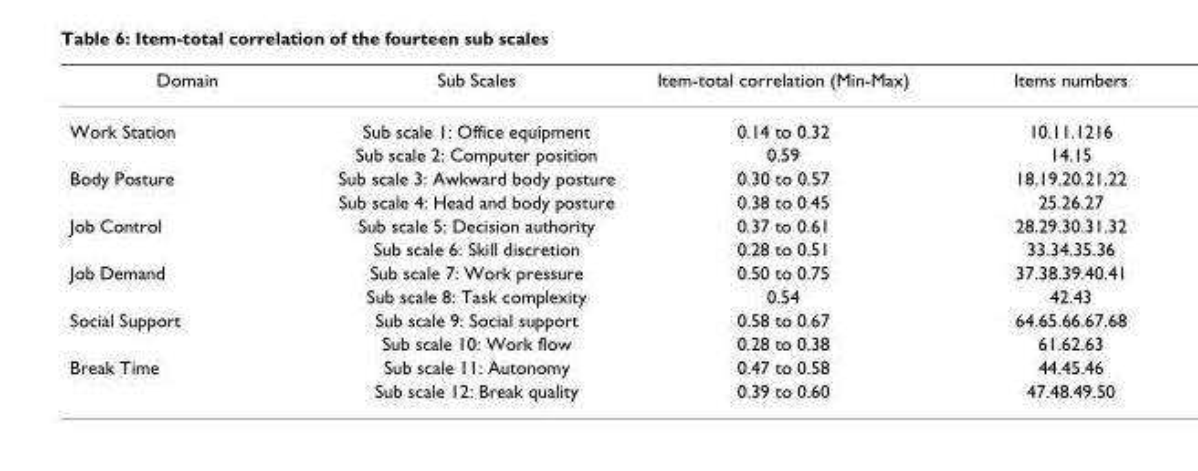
<table><thead><tr><td>Domain</td><td>Sub Scales</td><td>Item-total correlation (Min-Max)</td><td>Items numbers</td></tr></thead><tbody><tr><td rowspan="2">Work Station</td><td>Sub scale 1: Office equipment</td><td>0.14 to 0.32</td><td>10.11.1216</td></tr><tr><td>Sub scale 2: Computer position</td><td>0.59</td><td>14.15</td></tr><tr><td rowspan="2">Body Posture</td><td>Sub scale 3: Awkward body posture</td><td>0.30 to 0.57</td><td>18.19.20.21.22</td></tr><tr><td>Sub scale 4: Head and body posture</td><td>0.38 to 0.45</td><td>25.26.27</td></tr><tr><td rowspan="2">Job Control</td><td>Sub scale 5: Decision authority</td><td>0.37 to 0.61</td><td>28.29.30.31.32</td></tr><tr><td>Sub scale 6: Skill discretion</td><td>0.28 to 0.51</td><td>33.34.35.36</td></tr><tr><td rowspan="2">Job Demand</td><td>Sub scale 7: Work pressure</td><td>0.50 to 0.75</td><td>37.38.39.40.41</td></tr><tr><td>Sub scale 8: Task complexity</td><td>0.54</td><td>42.43</td></tr><tr><td rowspan="2">Social Support</td><td>Sub scale 9: Social support</td><td>0.58 to 0.67</td><td>64.65.66.67.68</td></tr><tr><td>Sub scale 10: Work flow</td><td>0.28 to 0.38</td><td>61.62.63</td></tr><tr><td rowspan="2">Break Time</td><td>Sub scale 11: Autonomy</td><td>0.47 to 0.58</td><td>44.45.46</td></tr><tr><td>Sub scale 12: Break quality</td><td>0.39 to 0.60</td><td>47.48.49.50</td></tr></tbody></table>